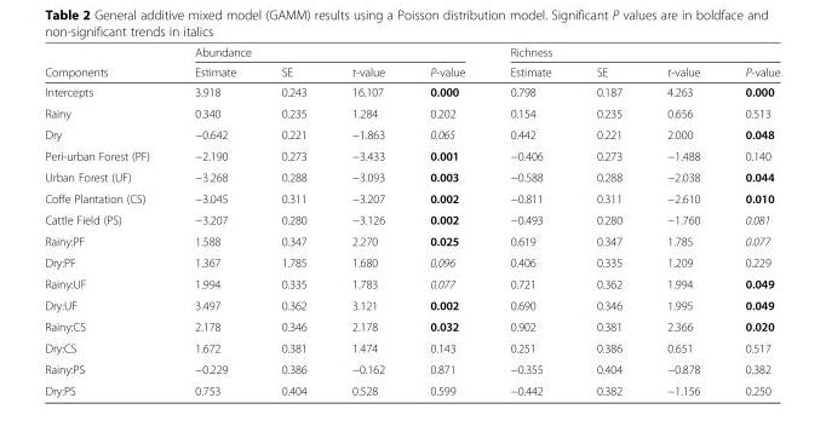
<table><thead><tr><td rowspan="2">Components</td><td colspan="4">Abundance</td><td colspan="4">Richness</td></tr><tr><td>Estimate</td><td>SE</td><td>t-value</td><td>P-value</td><td>Estimate</td><td>SE</td><td>t-value</td><td>P-value</td></tr></thead><tbody><tr><td>Intercepts</td><td>3.918</td><td>0.243</td><td>16.107</td><td>0.000</td><td>0.798</td><td>0.187</td><td>4.263</td><td>0.000</td></tr><tr><td>Rainy</td><td>0.340</td><td>0.235</td><td>1.284</td><td>0.202</td><td>0.154</td><td>0.235</td><td>0.656</td><td>0.513</td></tr><tr><td>Dry</td><td>−0.642</td><td>0.221</td><td>−1.863</td><td>0.065</td><td>0.442</td><td>0.221</td><td>2.000</td><td>0.048</td></tr><tr><td>Peri-urban Forest (PF)</td><td>−2.190</td><td>0.273</td><td>−3.433</td><td>0.001</td><td>−0.406</td><td>0.273</td><td>−1.488</td><td>0.140</td></tr><tr><td>Urban Forest (UF)</td><td>−3.268</td><td>0.288</td><td>−3.093</td><td>0.003</td><td>−0.588</td><td>0.288</td><td>−2.038</td><td>0.044</td></tr><tr><td>Coffe Plantation (CS)</td><td>−3.045</td><td>0.311</td><td>−3.207</td><td>0.002</td><td>−0.811</td><td>0.311</td><td>−2.610</td><td>0.010</td></tr><tr><td>Cattle Field (PS)</td><td>−3.207</td><td>0.280</td><td>−3.126</td><td>0.002</td><td>−0.493</td><td>0.280</td><td>−1.760</td><td>0.081</td></tr><tr><td>Rainy:PF</td><td>1.588</td><td>0.347</td><td>2.270</td><td>0.025</td><td>0.619</td><td>0.347</td><td>1.785</td><td>0.077</td></tr><tr><td>Dry:PF</td><td>1.367</td><td>1.785</td><td>1.680</td><td>0.096</td><td>0.406</td><td>0.335</td><td>1.209</td><td>0.229</td></tr><tr><td>Rainy:UF</td><td>1.994</td><td>0.335</td><td>1.783</td><td>0.077</td><td>0.721</td><td>0.362</td><td>1.994</td><td>0.049</td></tr><tr><td>Dry:UF</td><td>3.497</td><td>0.362</td><td>3.121</td><td>0.002</td><td>0.690</td><td>0.346</td><td>1.995</td><td>0.049</td></tr><tr><td>Rainy:CS</td><td>2.178</td><td>0.346</td><td>2.178</td><td>0.032</td><td>0.902</td><td>0.381</td><td>2.366</td><td>0.020</td></tr><tr><td>Dry:CS</td><td>1.672</td><td>0.381</td><td>1.474</td><td>0.143</td><td>0.251</td><td>0.386</td><td>0.651</td><td>0.517</td></tr><tr><td>Rainy:PS</td><td>−0.229</td><td>0.386</td><td>−0.162</td><td>0.871</td><td>−0.355</td><td>0.404</td><td>−0.878</td><td>0.382</td></tr><tr><td>Dry:PS</td><td>0.753</td><td>0.404</td><td>0.528</td><td>0.599</td><td>−0.442</td><td>0.382</td><td>−1.156</td><td>0.250</td></tr></tbody></table>